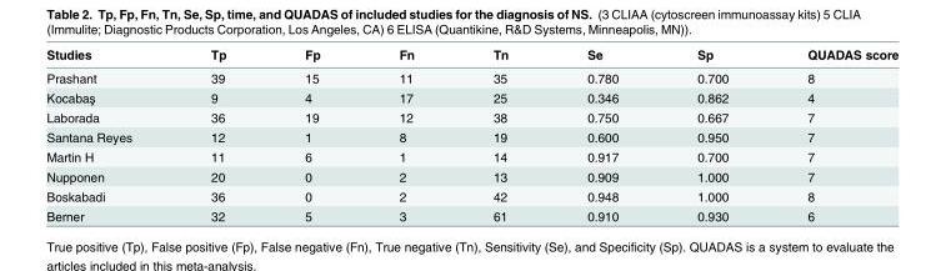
<table><thead><tr><td>Studies</td><td>Tp</td><td>Fp</td><td>Fn</td><td>Tn</td><td>Se</td><td>Sp</td><td>QUADAS score</td></tr></thead><tbody><tr><td>Prashant</td><td>39</td><td>15</td><td>11</td><td>35</td><td>0.780</td><td>0.700</td><td>8</td></tr><tr><td>Kocabaş</td><td>9</td><td>4</td><td>17</td><td>25</td><td>0.346</td><td>0.862</td><td>4</td></tr><tr><td>Laborada</td><td>36</td><td>19</td><td>12</td><td>38</td><td>0.750</td><td>0.667</td><td>7</td></tr><tr><td>Santana Reyes</td><td>12</td><td>1</td><td>8</td><td>19</td><td>0.600</td><td>0.950</td><td>7</td></tr><tr><td>Martin H</td><td>11</td><td>6</td><td>1</td><td>14</td><td>0.917</td><td>0.700</td><td>7</td></tr><tr><td>Nupponen</td><td>20</td><td>0</td><td>2</td><td>13</td><td>0.909</td><td>1.000</td><td>7</td></tr><tr><td>Boskabadi</td><td>36</td><td>0</td><td>2</td><td>42</td><td>0.948</td><td>1.000</td><td>8</td></tr><tr><td>Berner</td><td>32</td><td>5</td><td>3</td><td>61</td><td>0.910</td><td>0.930</td><td>6</td></tr></tbody></table>